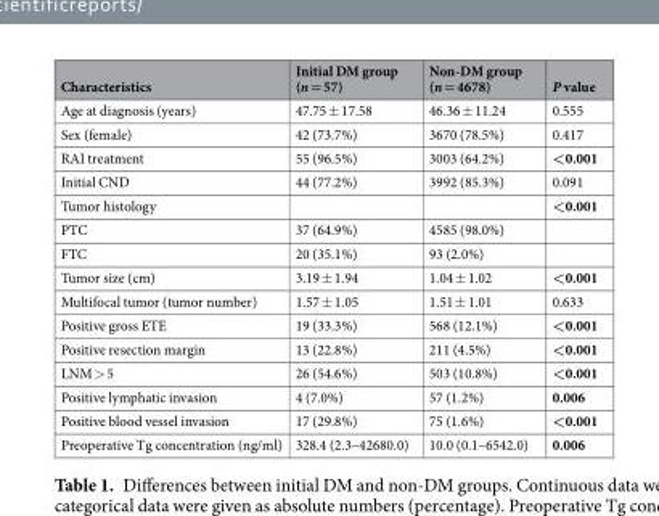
<table><thead><tr><td>Characteristics</td><td>Initial DM group (n = 57)</td><td>Non-DM group (n = 4678)</td><td>P value</td></tr></thead><tbody><tr><td>Age at diagnosis (years)</td><td>47.75 ± 17.58</td><td>46.36 ± 11.24</td><td>0.555</td></tr><tr><td>Sex (female)</td><td>42 (73.7%)</td><td>3670 (78.5%)</td><td>0.417</td></tr><tr><td>RAI treatment</td><td>55 (96.5%)</td><td>3003 (64.2%)</td><td>&lt;0.001</td></tr><tr><td>Initial CND</td><td>44 (77.2%)</td><td>3992 (85.3%)</td><td>0.091</td></tr><tr><td>Tumor histology</td><td></td><td></td><td>&lt;0.001</td></tr><tr><td>PTC</td><td>37 (64.9%)</td><td>4585 (98.0%)</td><td></td></tr><tr><td>FTC</td><td>20 (35.1%)</td><td>93 (2.0%)</td><td></td></tr><tr><td>Tumor size (cm)</td><td>3.19 ± 1.94</td><td>1.04 ± 1.02</td><td>&lt;0.001</td></tr><tr><td>Multifocal tumor (tumor number)</td><td>1.57 ± 1.05</td><td>1.51 ± 1.01</td><td>0.633</td></tr><tr><td>Positive gross ETE</td><td>19 (33.3%)</td><td>568 (12.1%)</td><td>&lt;0.001</td></tr><tr><td>Positive resection margin</td><td>13 (22.8%)</td><td>211 (4.5%)</td><td>&lt;0.001</td></tr><tr><td>LNM &gt; 5</td><td>26 (54.6%)</td><td>503 (10.8%)</td><td>&lt;0.001</td></tr><tr><td>Positive lymphatic invasion</td><td>4 (7.0%)</td><td>57 (1.2%)</td><td>0.006</td></tr><tr><td>Positive blood vessel invasion</td><td>17 (29.8%)</td><td>75 (1.6%)</td><td>&lt;0.001</td></tr><tr><td>Preoperative Tg concentration (ng/ml)</td><td>328.4 (2.3–42680.0)</td><td>10.0 (0.1–6542.0)</td><td>0.006</td></tr></tbody></table>